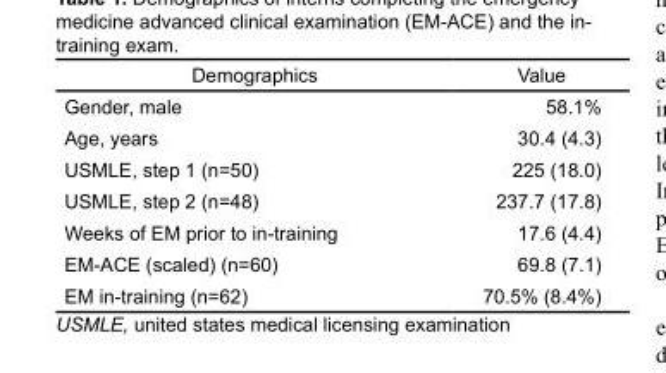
<table><thead><tr><td>Demographics</td><td>Value</td></tr></thead><tbody><tr><td>Gender, male</td><td>58.1%</td></tr><tr><td>Age, years</td><td>30.4 (4.3)</td></tr><tr><td>USMLE, step 1 (n=50)</td><td>225 (18.0)</td></tr><tr><td>USMLE, step 2 (n=48)</td><td>237.7 (17.8)</td></tr><tr><td>Weeks of EM prior to in-training</td><td>17.6 (4.4)</td></tr><tr><td>EM-ACE (scaled) (n=60)</td><td>69.8 (7.1)</td></tr><tr><td>EM in-training (n=62)</td><td>70.5% (8.4%)</td></tr></tbody></table>